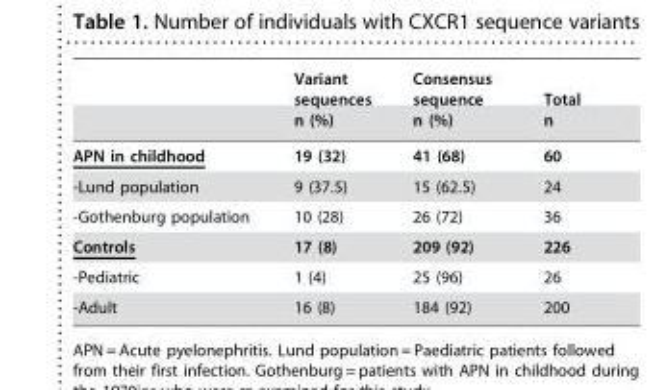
<table><thead><tr><td rowspan="2"></td><td rowspan="2">Variant sequences n (%)</td><td rowspan="2">Consensus sequence n (%)</td><td rowspan="2">Total n</td></tr><tr></tr></thead><tbody><tr><td>APN in childhood</td><td>19 (32)</td><td>41 (68)</td><td>60</td></tr><tr><td>-Lund population</td><td>9 (37.5)</td><td>15 (62.5)</td><td>24</td></tr><tr><td>-Gothenburg population</td><td>10 (28)</td><td>26 (72)</td><td>36</td></tr><tr><td>Controls</td><td>17 (8)</td><td>209 (92)</td><td>226</td></tr><tr><td>-Pediatric</td><td>1 (4)</td><td>25 (96)</td><td>26</td></tr><tr><td>-Adult</td><td>16 (8)</td><td>184 (92)</td><td>200</td></tr></tbody></table>